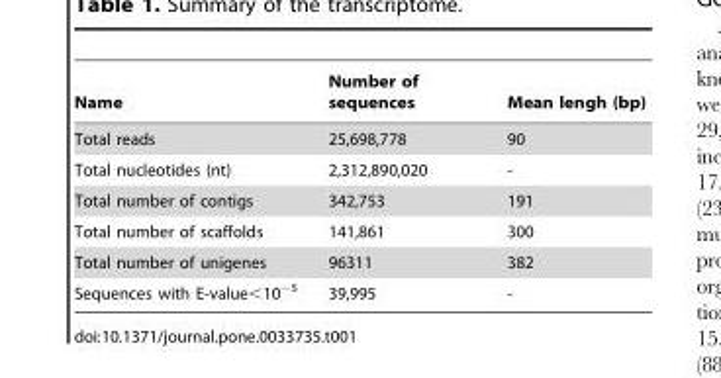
<table><thead><tr><td>Name</td><td>Number of sequences</td><td>Mean lengh (bp)</td></tr></thead><tbody><tr><td>Total reads</td><td>25,698,778</td><td>90</td></tr><tr><td>Total nucleotides (nt)</td><td>2,312,890,020</td><td>-</td></tr><tr><td>Total number of contigs</td><td>342,753</td><td>191</td></tr><tr><td>Total number of scaffolds</td><td>141,861</td><td>300</td></tr><tr><td>Total number of unigenes</td><td>96311</td><td>382</td></tr><tr><td>Sequences with E-value&lt;10<sup>−5</sup></td><td>39,995</td><td>-</td></tr></tbody></table>